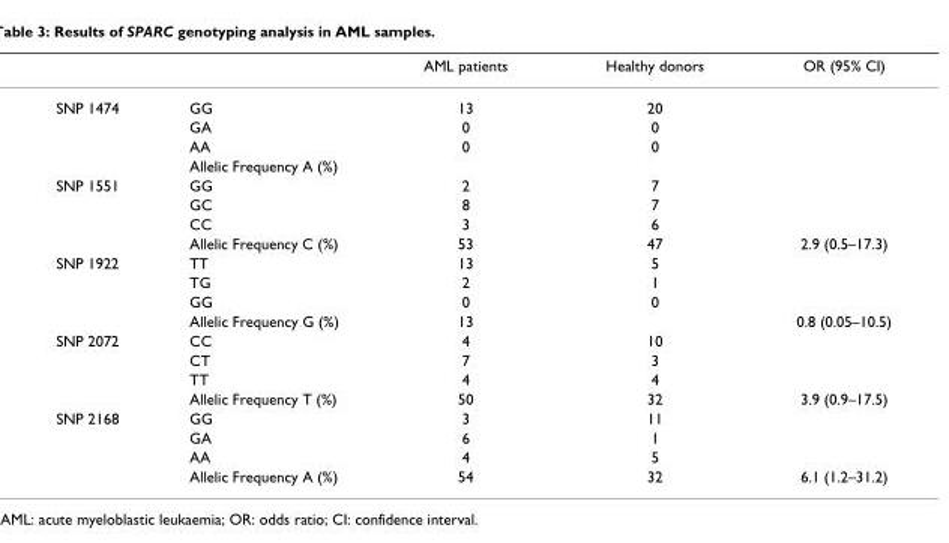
<table><thead><tr><td></td><td></td><td>AML patients</td><td>Healthy donors</td><td>OR (95% CI)</td></tr></thead><tbody><tr><td rowspan="4">SNP 1474</td><td>GG</td><td>13</td><td>20</td><td></td></tr><tr><td>GA</td><td>0</td><td>0</td><td></td></tr><tr><td>AA</td><td>0</td><td>0</td><td></td></tr><tr><td>Allelic Frequency A (%)</td><td></td><td></td><td></td></tr><tr><td rowspan="4">SNP 1551</td><td>GG</td><td>2</td><td>7</td><td></td></tr><tr><td>GC</td><td>8</td><td>7</td><td></td></tr><tr><td>CC</td><td>3</td><td>6</td><td></td></tr><tr><td>Allelic Frequency C (%)</td><td>53</td><td>47</td><td>2.9 (0.5–17.3)</td></tr><tr><td rowspan="4">SNP 1922</td><td>TT</td><td>13</td><td>5</td><td></td></tr><tr><td>TG</td><td>2</td><td>1</td><td></td></tr><tr><td>GG</td><td>0</td><td>0</td><td></td></tr><tr><td>Allelic Frequency G (%)</td><td>13</td><td></td><td>0.8 (0.05–10.5)</td></tr><tr><td rowspan="4">SNP 2072</td><td>CC</td><td>4</td><td>10</td><td></td></tr><tr><td>CT</td><td>7</td><td>3</td><td></td></tr><tr><td>TT</td><td>4</td><td>4</td><td></td></tr><tr><td>Allelic Frequency T (%)</td><td>50</td><td>32</td><td>3.9 (0.9–17.5)</td></tr><tr><td rowspan="4">SNP 2168</td><td>GG</td><td>3</td><td>11</td><td></td></tr><tr><td>GA</td><td>6</td><td>1</td><td></td></tr><tr><td>AA</td><td>4</td><td>5</td><td></td></tr><tr><td>Allelic Frequency A (%)</td><td>54</td><td>32</td><td>6.1 (1.2–31.2)</td></tr></tbody></table>